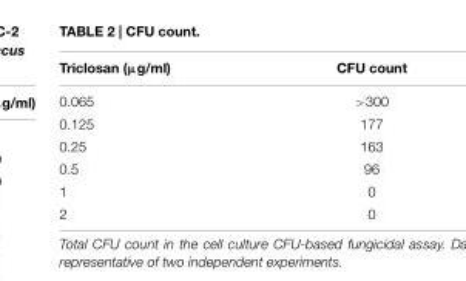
<table><thead><tr><td>Triclosan (µg/ml)</td><td>CFU count</td></tr></thead><tbody><tr><td>0.065</td><td>&gt;300</td></tr><tr><td>0.125</td><td>177</td></tr><tr><td>0.25</td><td>163</td></tr><tr><td>0.5</td><td>96</td></tr><tr><td>1</td><td>0</td></tr><tr><td>2</td><td>0</td></tr></tbody></table>